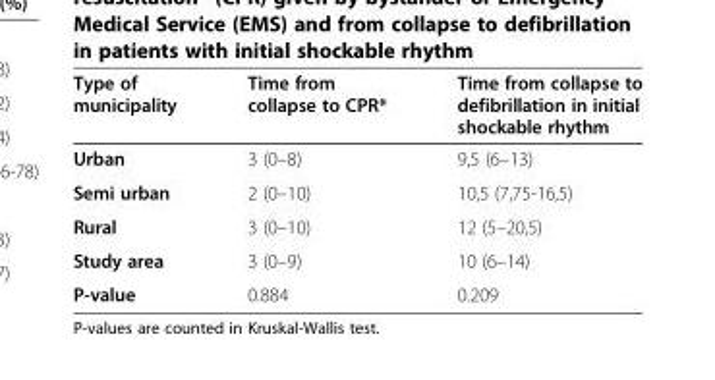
<table><thead><tr><td>Type of municipality</td><td>Time from collapse to CPR*</td><td>Time from collapse to defibrillation in initial shockable rhythm</td></tr></thead><tbody><tr><td>Urban</td><td>3 (0–8)</td><td>9,5 (6–13)</td></tr><tr><td>Semi urban</td><td>2 (0–10)</td><td>10,5 (7,75-16,5)</td></tr><tr><td>Rural</td><td>3 (0–10)</td><td>12 (5–20,5)</td></tr><tr><td>Study area</td><td>3 (0–9)</td><td>10 (6–14)</td></tr><tr><td>P-value</td><td>0.884</td><td>0.209</td></tr></tbody></table>